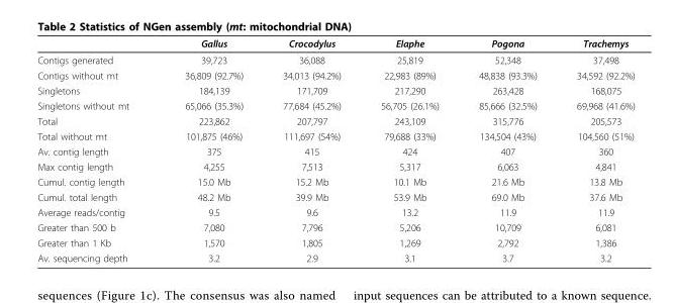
<table><thead><tr><td></td><td>Gallus</td><td>Crocodylus</td><td>Elaphe</td><td>Pogona</td><td>Trachemys</td></tr></thead><tbody><tr><td>Contigs generated</td><td>39,723</td><td>36,088</td><td>25,819</td><td>52,348</td><td>37,498</td></tr><tr><td>Contigs without mt</td><td>36,809 (92.7%)</td><td>34,013 (94.2%)</td><td>22,983 (89%)</td><td>48,838 (93.3%)</td><td>34,592 (92.2%)</td></tr><tr><td>Singletons</td><td>184,139</td><td>171,709</td><td>217,290</td><td>263,428</td><td>168,075</td></tr><tr><td>Singletons without mt</td><td>65,066 (35.3%)</td><td>77,684 (45.2%)</td><td>56,705 (26.1%)</td><td>85,666 (32.5%)</td><td>69,968 (41.6%)</td></tr><tr><td>Total</td><td>223,862</td><td>207,797</td><td>243,109</td><td>315,776</td><td>205,573</td></tr><tr><td>Total without mt</td><td>101,875 (46%)</td><td>111,697 (54%)</td><td>79,688 (33%)</td><td>134,504 (43%)</td><td>104,560 (51%)</td></tr><tr><td>Av. contig length</td><td>375</td><td>415</td><td>424</td><td>407</td><td>360</td></tr><tr><td>Max contig length</td><td>4,255</td><td>7,513</td><td>5,317</td><td>6,063</td><td>4,841</td></tr><tr><td>Cumul. contig length</td><td>15.0 Mb</td><td>15.2 Mb</td><td>10.1 Mb</td><td>21.6 Mb</td><td>13.8 Mb</td></tr><tr><td>Cumul. total length</td><td>48.2 Mb</td><td>39.9 Mb</td><td>53.9 Mb</td><td>69.0 Mb</td><td>37.6 Mb</td></tr><tr><td>Average reads/contig</td><td>9.5</td><td>9.6</td><td>13.2</td><td>11.9</td><td>11.9</td></tr><tr><td>Greater than 500 b</td><td>7,080</td><td>7,796</td><td>5,206</td><td>10,709</td><td>6,081</td></tr><tr><td>Greater than 1 Kb</td><td>1,570</td><td>1,805</td><td>1,269</td><td>2,792</td><td>1,386</td></tr><tr><td>Av. sequencing depth</td><td>3.2</td><td>2.9</td><td>3.1</td><td>3.7</td><td>3.2</td></tr></tbody></table>